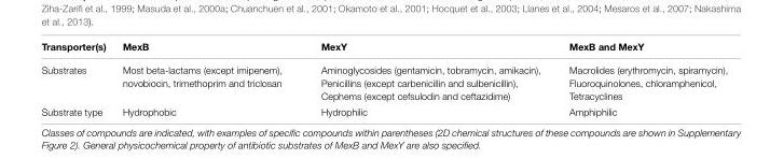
<table><thead><tr><td>Transporter(s)</td><td>MexB</td><td>MexY</td><td>MexB and MexY</td></tr></thead><tbody><tr><td>Substrates</td><td>Most beta-lactams (except imipenem), novobiocin, trimethoprim and triclosan</td><td>Aminoglycosides (gentamicin, tobramycin, amikacin), Penicillins (except carbenicillin and sulbenicillin), Cephems (except cefsulodin and ceftazidime)</td><td>Macrolides (erythromycin, spiramycin), Fluoroquinolones, chloramphenicol, Tetracyclines</td></tr><tr><td>Substrate type</td><td>Hydrophobic</td><td>Hydrophilic</td><td>Amphiphilic</td></tr></tbody></table>